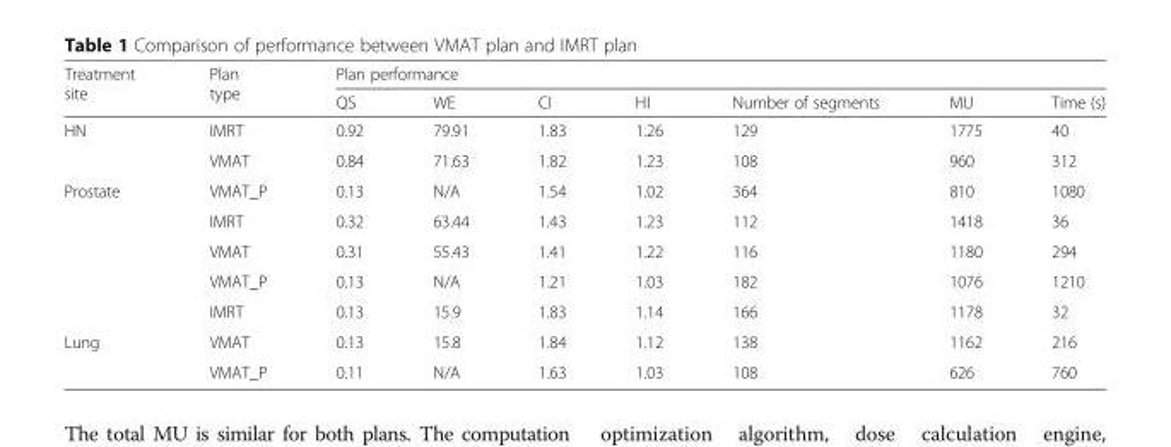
<table><thead><tr><td rowspan="2">Treatment site</td><td rowspan="2">Plan type</td><td colspan="7">Plan performance</td></tr><tr><td>QS</td><td>WE</td><td>CI</td><td>HI</td><td>Number of segments</td><td>MU</td><td>Time (s)</td></tr></thead><tbody><tr><td rowspan="2">HN</td><td>IMRT</td><td>0.92</td><td>79.91</td><td>1.83</td><td>1.26</td><td>129</td><td>1775</td><td>40</td></tr><tr><td>VMAT</td><td>0.84</td><td>71.63</td><td>1.82</td><td>1.23</td><td>108</td><td>960</td><td>312</td></tr><tr><td rowspan="5">Prostate</td><td>VMAT_P</td><td>0.13</td><td>N/A</td><td>1.54</td><td>1.02</td><td>364</td><td>810</td><td>1080</td></tr><tr><td>IMRT</td><td>0.32</td><td>63.44</td><td>1.43</td><td>1.23</td><td>112</td><td>1418</td><td>36</td></tr><tr><td>VMAT</td><td>0.31</td><td>55.43</td><td>1.41</td><td>1.22</td><td>116</td><td>1180</td><td>294</td></tr><tr><td>VMAT_P</td><td>0.13</td><td>N/A</td><td>1.21</td><td>1.03</td><td>182</td><td>1076</td><td>1210</td></tr><tr><td>IMRT</td><td>0.13</td><td>15.9</td><td>1.83</td><td>1.14</td><td>166</td><td>1178</td><td>32</td></tr><tr><td rowspan="2">Lung</td><td>VMAT</td><td>0.13</td><td>15.8</td><td>1.84</td><td>1.12</td><td>138</td><td>1162</td><td>216</td></tr><tr><td>VMAT_P</td><td>0.11</td><td>N/A</td><td>1.63</td><td>1.03</td><td>108</td><td>626</td><td>760</td></tr></tbody></table>